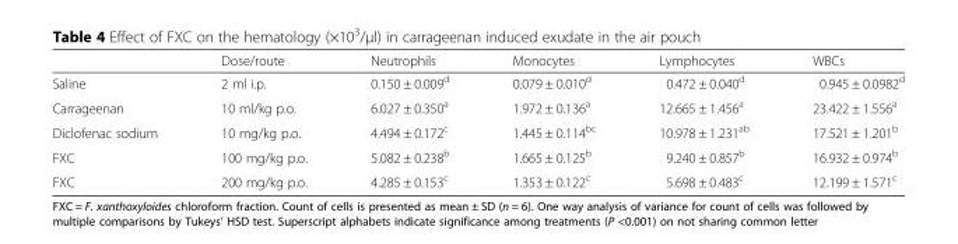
<table><thead><tr><td></td><td>Dose/route</td><td>Neutrophils</td><td>Monocytes</td><td>Lymphocytes</td><td>WBCs</td></tr></thead><tbody><tr><td>Saline</td><td>2 ml i.p.</td><td>0.150 ± 0.009<sup>d</sup></td><td>0.079 ± 0.010<sup>d</sup></td><td>0.472 ± 0.040<sup>d</sup></td><td>0.945 ± 0.0982<sup>d</sup></td></tr><tr><td>Carrageenan</td><td>10 ml/kg p.o.</td><td>6.027 ± 0.350<sup>a</sup></td><td>1.972 ± 0.136<sup>a</sup></td><td>12.665 ± 1.456<sup>a</sup></td><td>23.422 ± 1.556<sup>a</sup></td></tr><tr><td>Diclofenac sodium</td><td>10 mg/kg p.o.</td><td>4.494 ± 0.172<sup>c</sup></td><td>1.445 ± 0.114<sup>bc</sup></td><td>10.978 ± 1.231<sup>ab</sup></td><td>17.521 ± 1.201<sup>b</sup></td></tr><tr><td>FXC</td><td>100 mg/kg p.o.</td><td>5.082 ± 0.238<sup>b</sup></td><td>1.665 ± 0.125<sup>b</sup></td><td>9.240 ± 0.857<sup>b</sup></td><td>16.932 ± 0.974<sup>b</sup></td></tr><tr><td>FXC</td><td>200 mg/kg p.o.</td><td>4.285 ± 0.153<sup>c</sup></td><td>1.353 ± 0.122<sup>c</sup></td><td>5.698 ± 0.483<sup>c</sup></td><td>12.199 ± 1.571<sup>c</sup></td></tr></tbody></table>